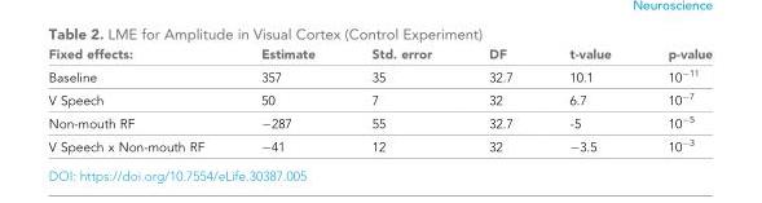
<table><thead><tr><td>Fixed effects:</td><td>Estimate</td><td>Std. error</td><td>DF</td><td>t-value</td><td>p-value</td></tr></thead><tbody><tr><td>Baseline</td><td>357</td><td>35</td><td>32.7</td><td>10.1</td><td>10<sup>−11</sup></td></tr><tr><td>V Speech</td><td>50</td><td>7</td><td>32</td><td>6.7</td><td>10<sup>−7</sup></td></tr><tr><td>Non-mouth RF</td><td>−287</td><td>55</td><td>32.7</td><td>-5</td><td>10<sup>−5</sup></td></tr><tr><td>V Speech x Non-mouth RF</td><td>−41</td><td>12</td><td>32</td><td>−3.5</td><td>10<sup>−3</sup></td></tr></tbody></table>